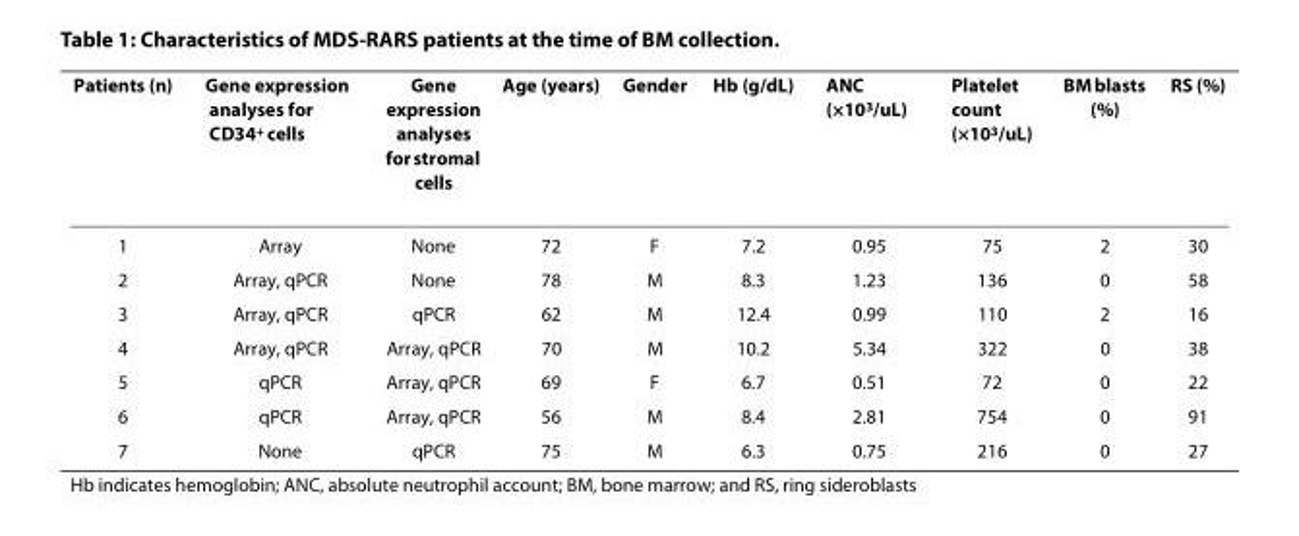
<table><thead><tr><td>Patients (n)</td><td>Gene expression analyses for CD34<sup>+</sup> cells</td><td>Gene expression analyses for stromal cells</td><td>Age (years)</td><td>Gender</td><td>Hb (g/dL)</td><td>ANC (×10<sup>3</sup>/uL)</td><td>Platelet count (×10<sup>3</sup>/uL)</td><td>BM blasts (%)</td><td>RS (%)</td></tr></thead><tbody><tr><td>1</td><td>Array</td><td>None</td><td>72</td><td>F</td><td>7.2</td><td>0.95</td><td>75</td><td>2</td><td>30</td></tr><tr><td>2</td><td>Array, qPCR</td><td>None</td><td>78</td><td>M</td><td>8.3</td><td>1.23</td><td>136</td><td>0</td><td>58</td></tr><tr><td>3</td><td>Array, qPCR</td><td>qPCR</td><td>62</td><td>M</td><td>12.4</td><td>0.99</td><td>110</td><td>2</td><td>16</td></tr><tr><td>4</td><td>Array, qPCR</td><td>Array, qPCR</td><td>70</td><td>M</td><td>10.2</td><td>5.34</td><td>322</td><td>0</td><td>38</td></tr><tr><td>5</td><td>qPCR</td><td>Array, qPCR</td><td>69</td><td>F</td><td>6.7</td><td>0.51</td><td>72</td><td>0</td><td>22</td></tr><tr><td>6</td><td>qPCR</td><td>Array, qPCR</td><td>56</td><td>M</td><td>8.4</td><td>2.81</td><td>754</td><td>0</td><td>91</td></tr><tr><td>7</td><td>None</td><td>qPCR</td><td>75</td><td>M</td><td>6.3</td><td>0.75</td><td>216</td><td>0</td><td>27</td></tr></tbody></table>